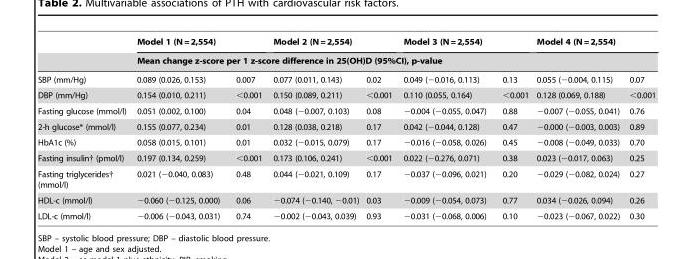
<table><thead><tr><td rowspan="3">SBP (mm/Hg)</td><td colspan="2">Model 1 (N =2,554)</td><td colspan="2">Model 2 (N =2,554)</td><td colspan="2">Model 3 (N =2,554)</td><td colspan="2">Model 4 (N= 2,554)</td></tr><tr><td colspan="8">Mean change z-score per 1 z-score difference in 25(OH)D (95%CI), p-value</td></tr><tr><td>0.089 (0.026, 0.153)</td><td>0.007</td><td>0.077 (0.011, 0.143)</td><td>0.02</td><td>0.049 (−0.016, 0.113)</td><td>0.13</td><td>0.055 (−0.004, 0.115)</td><td>0.07</td></tr></thead><tbody><tr><td>DBP (mm/Hg)</td><td>0.154 (0.010, 0.211)</td><td>&lt;0.001</td><td>0.150 (0.089, 0.211)</td><td>&lt;0.001</td><td>0.110 (0.055, 0.164)</td><td>&lt;0.001</td><td>0.128 (0.069, 0.188)</td><td>&lt;0.001</td></tr><tr><td>Fasting glucose (mmol/l)</td><td>0.051 (0.002, 0.100)</td><td>0.04</td><td>0.048 (−0.007, 0.103)</td><td>0.08</td><td>−0.004 (−0.055, 0.047)</td><td>0.88</td><td>−0.007 (−0.055, 0.041)</td><td>0.76</td></tr><tr><td>2-h glucose* (mmol/l)</td><td>0.155 (0.077, 0.234)</td><td>0.01</td><td>0.128 (0.038, 0.218)</td><td>0.17</td><td>0.042 (−0.044, 0.128)</td><td>0.47</td><td>−0.000 (−0.003, 0.003)</td><td>0.89</td></tr><tr><td>HbA1c (%)</td><td>0.058 (0.015, 0.101)</td><td>0.01</td><td>0.032 (−0.015, 0.079)</td><td>0.17</td><td>−0.016 (−0.058, 0.026)</td><td>0.45</td><td>−0.008 (−0.049, 0.033)</td><td>0.70</td></tr><tr><td>Fasting insulin† (pmol/l)</td><td>0.197 (0.134, 0.259)</td><td>&lt;0.001</td><td>0.173 (0.106, 0.241)</td><td>&lt;0.001</td><td>0.022 (−0.276, 0.071)</td><td>0.38</td><td>0.023 (−0.017, 0.063)</td><td>0.25</td></tr><tr><td>Fasting triglycerides† (mmol/l)</td><td>0.021 (−0.040, 0.083)</td><td>0.48</td><td>0.044 (−0.021, 0.109)</td><td>0.17</td><td>−0.037 (−0.096, 0.021)</td><td>0.20</td><td>−0.029 (−0.082, 0.024)</td><td>0.27</td></tr><tr><td>HDL-c (mmol/l)</td><td>−0.060 (−0.125, 0.000)</td><td>0.06</td><td>−0.074 (−0.140, −0.01)</td><td>0.03</td><td>−0.009 (−0.054, 0.073)</td><td>0.77</td><td>0.034 (−0.026, 0.094)</td><td>0.26</td></tr><tr><td>LDL-c (mmol/l)</td><td>−0.006 (−0.043, 0.031)</td><td>0.74</td><td>−0.002 (−0.043, 0.039)</td><td>0.93</td><td>−0.031 (−0.068, 0.006)</td><td>0.10</td><td>−0.023 (−0.067, 0.022)</td><td>0.30</td></tr></tbody></table>